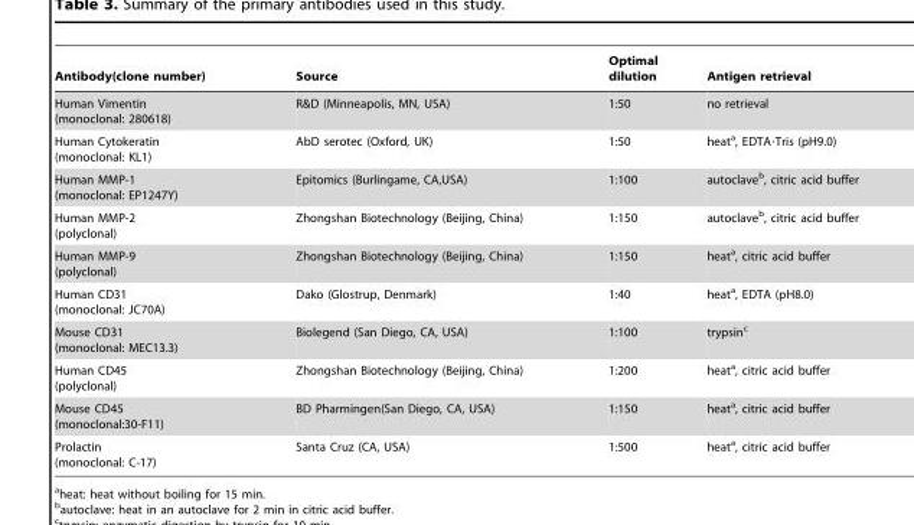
<table><thead><tr><td>Antibody(clone number)</td><td>Source</td><td>Optimal dilution</td><td>Antigen retrieval</td></tr></thead><tbody><tr><td>Human Vimentin (monoclonal: 280618)</td><td>R&amp;D (Minneapolis, MN, USA)</td><td>1:50</td><td>no retrieval</td></tr><tr><td>Human Cytokeratin (monoclonal: KL1)</td><td>AbD serotec (Oxford, UK)</td><td>1:50</td><td>heat<sup>a</sup>, EDTA·Tris (pH9.0)</td></tr><tr><td>Human MMP-1 (monoclonal: EP1247Y)</td><td>Epitomics (Burlingame, CA,USA)</td><td>1:100</td><td>autoclave<sup>b</sup>, citric acid buffer</td></tr><tr><td>Human MMP-2 (polyclonal)</td><td>Zhongshan Biotechnology (Beijing, China)</td><td>1:150</td><td>autoclave<sup>b</sup>, citric acid buffer</td></tr><tr><td>Human MMP-9 (polyclonal)</td><td>Zhongshan Biotechnology (Beijing, China)</td><td>1:150</td><td>heat<sup>a</sup>, citric acid buffer</td></tr><tr><td>Human CD31 (monoclonal: JC70A)</td><td>Dako (Glostrup, Denmark)</td><td>1:40</td><td>heat<sup>a</sup>, EDTA (pH8.0)</td></tr><tr><td>Mouse CD31 (monoclonal: MEC13.3)</td><td>Biolegend (San Diego, CA, USA)</td><td>1:100</td><td>trypsin<sup>c</sup></td></tr><tr><td>Human CD45 (polyclonal)</td><td>Zhongshan Biotechnology (Beijing, China)</td><td>1:200</td><td>heat<sup>a</sup>, citric acid buffer</td></tr><tr><td>Mouse CD45 (monoclonal:30-F11)</td><td>BD Pharmingen(San Diego, CA, USA)</td><td>1:150</td><td>heat<sup>a</sup>, citric acid buffer</td></tr><tr><td>Prolactin (monoclonal: C-17)</td><td>Santa Cruz (CA, USA)</td><td>1:500</td><td>heat<sup>a</sup>, citric acid buffer</td></tr></tbody></table>